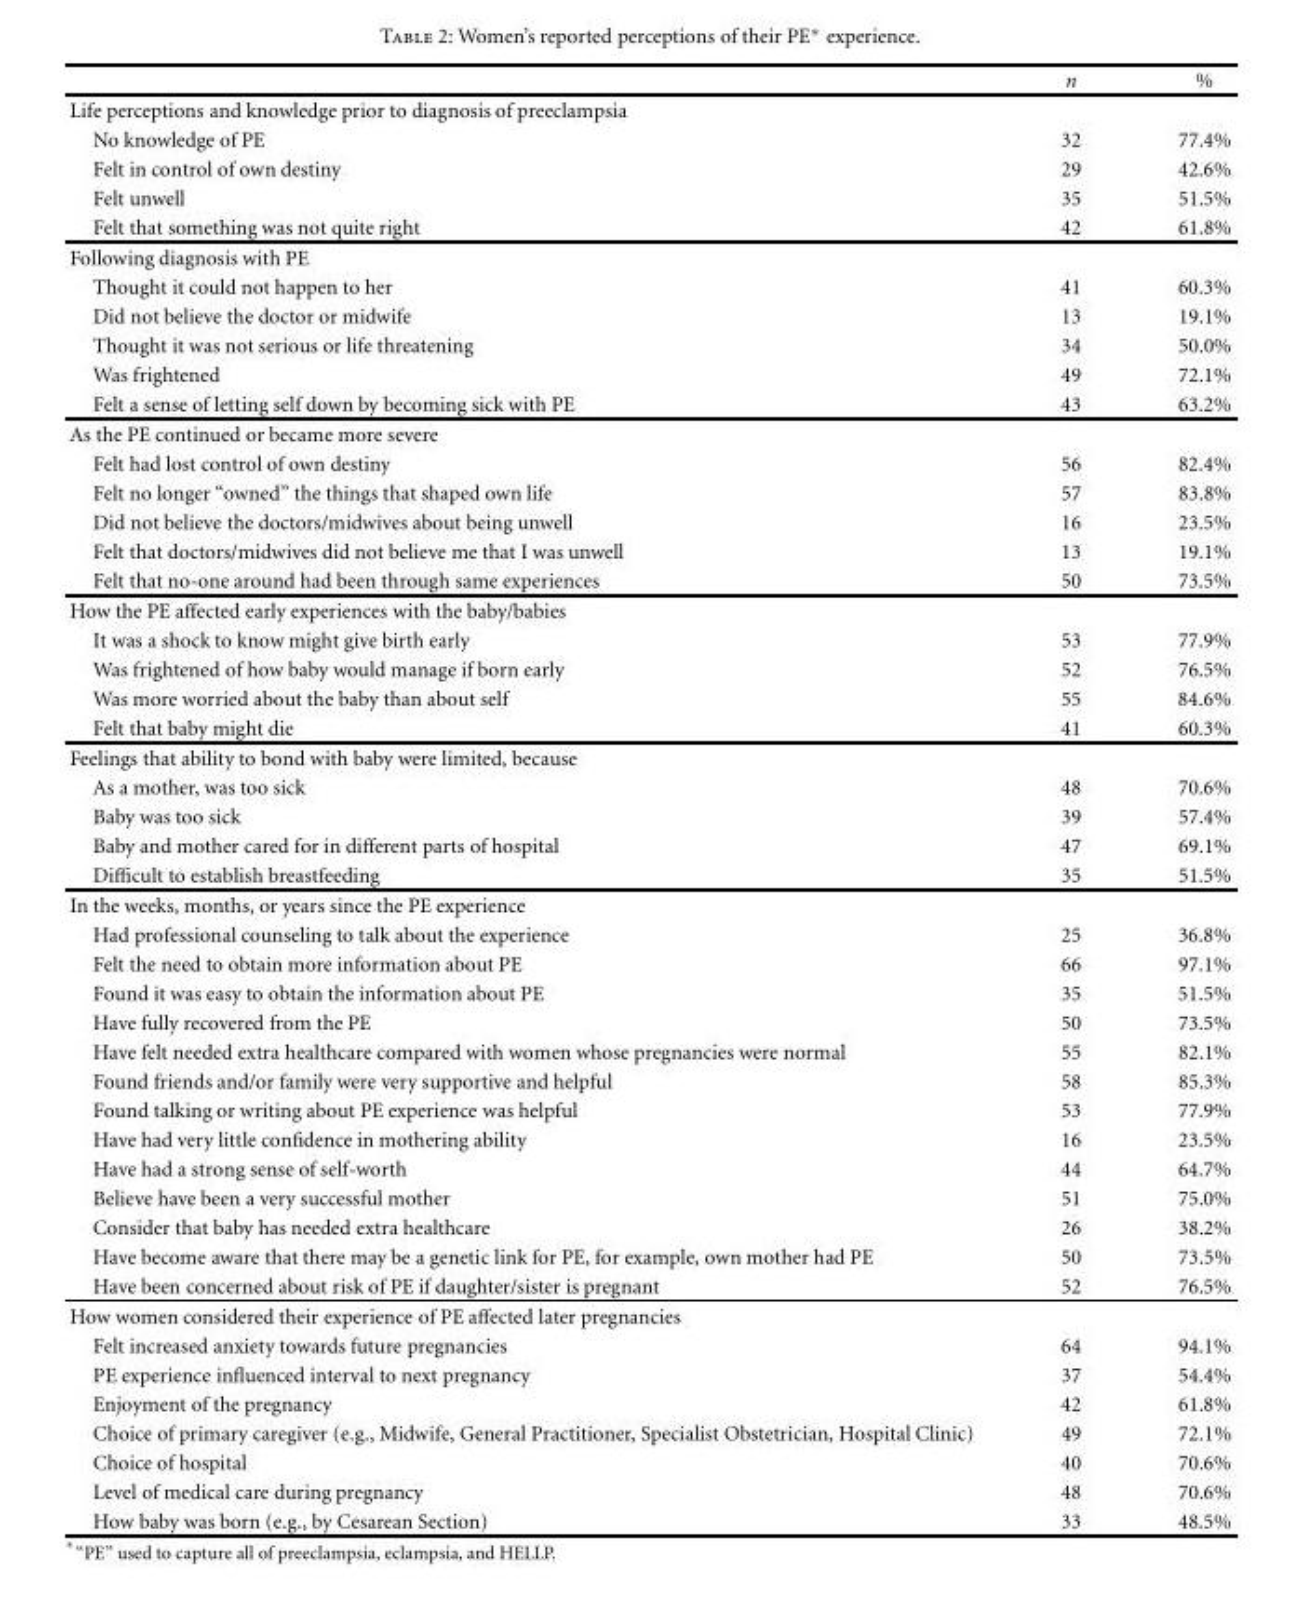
<table><thead><tr><td></td><td>n</td><td>%</td></tr></thead><tbody><tr><td colspan="3">Life perceptions and knowledge prior to diagnosis of preeclampsia</td></tr><tr><td>No knowledge of PE</td><td>32</td><td>77.4%</td></tr><tr><td>Felt in control of own destiny</td><td>29</td><td>42.6%</td></tr><tr><td>Felt unwell</td><td>35</td><td>51.5%</td></tr><tr><td>Felt that something was not quite right</td><td>42</td><td>61.8%</td></tr><tr><td colspan="3">Following diagnosis with PE</td></tr><tr><td>Thought it could not happen to her</td><td>41</td><td>60.3%</td></tr><tr><td>Did not believe the doctor or midwife</td><td>13</td><td>19.1%</td></tr><tr><td>Thought it was not serious or life threatening</td><td>34</td><td>50.0%</td></tr><tr><td>Was frightened</td><td>49</td><td>72.1%</td></tr><tr><td>Felt a sense of letting self down by becoming sick with PE</td><td>43</td><td>63.2%</td></tr><tr><td colspan="3">As the PE continued or became more severe</td></tr><tr><td>Felt had lost control of own destiny</td><td>56</td><td>82.4%</td></tr><tr><td>Felt no longer “owned” the things that shaped own life</td><td>57</td><td>83.8%</td></tr><tr><td>Did not believe the doctors/midwives about being unwell</td><td>16</td><td>23.5%</td></tr><tr><td>Felt that doctors/midwives did not believe me that I was unwell</td><td>13</td><td>19.1%</td></tr><tr><td>Felt that no-one around had been through same experiences</td><td>50</td><td>73.5%</td></tr><tr><td colspan="3">How the PE affected early experiences with the baby/babies</td></tr><tr><td>It was a shock to know might give birth early</td><td>53</td><td>77.9%</td></tr><tr><td>Was frightened of how baby would manage if born early</td><td>52</td><td>76.5%</td></tr><tr><td>Was more worried about the baby than about self</td><td>55</td><td>84.6%</td></tr><tr><td>Felt that baby might die</td><td>41</td><td>60.3%</td></tr><tr><td colspan="3">Feelings that ability to bond with baby were limited, because</td></tr><tr><td>As a mother, was too sick</td><td>48</td><td>70.6%</td></tr><tr><td>Baby was too sick</td><td>39</td><td>57.4%</td></tr><tr><td>Baby and mother cared for in different parts of hospital</td><td>47</td><td>69.1%</td></tr><tr><td>Difficult to establish breastfeeding</td><td>35</td><td>51.5%</td></tr><tr><td colspan="3">In the weeks, months, or years since the PE experience</td></tr><tr><td>Had professional counseling to talk about the experience</td><td>25</td><td>36.8%</td></tr><tr><td>Felt the need to obtain more information about PE</td><td>66</td><td>97.1%</td></tr><tr><td>Found it was easy to obtain the information about PE</td><td>35</td><td>51.5%</td></tr><tr><td>Have fully recovered from the PE</td><td>50</td><td>73.5%</td></tr><tr><td>Have felt needed extra healthcare compared with women whose pregnancies were normal</td><td>55</td><td>82.1%</td></tr><tr><td>Found friends and/or family were very supportive and helpful</td><td>58</td><td>85.3%</td></tr><tr><td>Found talking or writing about PE experience was helpful</td><td>53</td><td>77.9%</td></tr><tr><td>Have had very little confidence in mothering ability</td><td>16</td><td>23.5%</td></tr><tr><td>Have had a strong sense of self-worth</td><td>44</td><td>64.7%</td></tr><tr><td>Believe have been a very successful mother</td><td>51</td><td>75.0%</td></tr><tr><td>Consider that baby has needed extra healthcare</td><td>26</td><td>38.2%</td></tr><tr><td>Have become aware that there may be a genetic link for PE, for example, own mother had PE</td><td>50</td><td>73.5%</td></tr><tr><td>Have been concerned about risk of PE if daughter/sister is pregnant</td><td>52</td><td>76.5%</td></tr><tr><td colspan="3">How women considered their experience of PE affected later pregnancies</td></tr><tr><td>Felt increased anxiety towards future pregnancies</td><td>64</td><td>94.1%</td></tr><tr><td>PE experience influenced interval to next pregnancy</td><td>37</td><td>54.4%</td></tr><tr><td>Enjoyment of the pregnancy</td><td>42</td><td>61.8%</td></tr><tr><td>Choice of primary caregiver (e.g., Midwife, General Practitioner, Specialist Obstetrician, Hospital Clinic)</td><td>49</td><td>72.1%</td></tr><tr><td>Choice of hospital</td><td>40</td><td>70.6%</td></tr><tr><td>Level of medical care during pregnancy</td><td>48</td><td>70.6%</td></tr><tr><td>How baby was born (e.g., by Cesarean Section)</td><td>33</td><td>48.5%</td></tr></tbody></table>